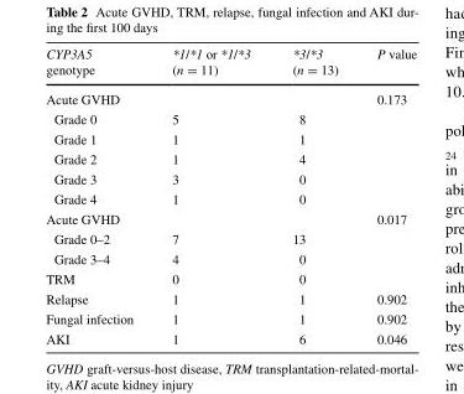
<table><thead><tr><td>CYP3A5 genotype</td><td>*1/*1 or *1/*3 (n = 11)</td><td>*3/*3 (n = 13)</td><td>P value</td></tr></thead><tbody><tr><td>Acute GVHD</td><td></td><td></td><td>0.173</td></tr><tr><td>Grade 0</td><td>5</td><td>8</td><td></td></tr><tr><td>Grade 1</td><td>1</td><td>1</td><td></td></tr><tr><td>Grade 2</td><td>1</td><td>4</td><td></td></tr><tr><td>Grade 3</td><td>3</td><td>0</td><td></td></tr><tr><td>Grade 4</td><td>1</td><td>0</td><td></td></tr><tr><td>Acute GVHD</td><td></td><td></td><td>0.017</td></tr><tr><td>Grade 0–2</td><td>7</td><td>13</td><td></td></tr><tr><td>Grade 3–4</td><td>4</td><td>0</td><td></td></tr><tr><td>TRM</td><td>0</td><td>0</td><td></td></tr><tr><td>Relapse</td><td>1</td><td>1</td><td>0.902</td></tr><tr><td>Fungal infection</td><td>1</td><td>1</td><td>0.902</td></tr><tr><td>AKI</td><td>1</td><td>6</td><td>0.046</td></tr></tbody></table>